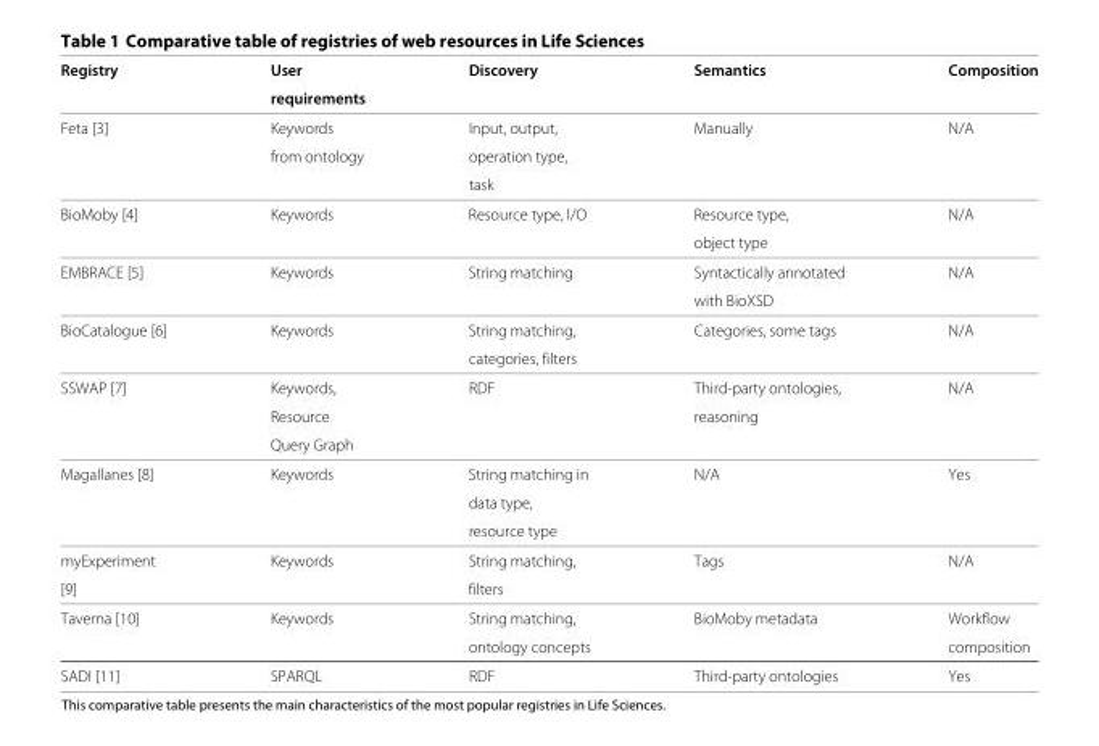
<table><thead><tr><td rowspan="2">Registry</td><td rowspan="2">User requirements</td><td rowspan="2">Discovery</td><td rowspan="2">Semantics</td><td rowspan="2">Composition</td></tr><tr></tr></thead><tbody><tr><td rowspan="3">Feta [3]</td><td>Keywords</td><td>Input, output,</td><td>Manually</td><td>N/A</td></tr><tr><td>from ontology</td><td>operation type,</td><td></td><td></td></tr><tr><td></td><td>task</td><td></td><td></td></tr><tr><td rowspan="2">BioMoby [4]</td><td>Keywords</td><td>Resource type, I/O</td><td>Resource type,</td><td>N/A</td></tr><tr><td></td><td></td><td>object type</td><td></td></tr><tr><td rowspan="2">EMBRACE [5]</td><td>Keywords</td><td>String matching</td><td>Syntactically annotated</td><td>N/A</td></tr><tr><td></td><td></td><td>with BioXSD</td><td></td></tr><tr><td rowspan="2">BioCatalogue [6]</td><td>Keywords</td><td>String matching,</td><td>Categories, some tags</td><td>N/A</td></tr><tr><td></td><td>categories, filters</td><td></td><td></td></tr><tr><td rowspan="3">SSWAP [7]</td><td>Keywords,</td><td>RDF</td><td>Third-party ontologies,</td><td>N/A</td></tr><tr><td>Resource</td><td></td><td>reasoning</td><td></td></tr><tr><td>Query Graph</td><td></td><td></td><td></td></tr><tr><td rowspan="3">Magallanes [8]</td><td>Keywords</td><td>String matching in</td><td>N/A</td><td>Yes</td></tr><tr><td></td><td>data type,</td><td></td><td></td></tr><tr><td></td><td>resource type</td><td></td><td></td></tr><tr><td>myExperiment</td><td>Keywords</td><td>String matching,</td><td>Tags</td><td>N/A</td></tr><tr><td>[9]</td><td></td><td>filters</td><td></td><td></td></tr><tr><td rowspan="2">Taverna [10]</td><td>Keywords</td><td>String matching,</td><td>BioMoby metadata</td><td>Workflow</td></tr><tr><td></td><td>ontology concepts</td><td></td><td>composition</td></tr><tr><td>SADI [11]</td><td>SPARQL</td><td>RDF</td><td>Third-party ontologies</td><td>Yes</td></tr></tbody></table>